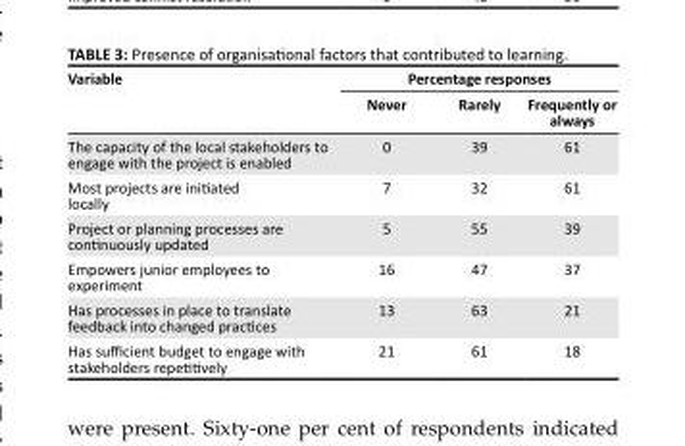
<table><thead><tr><td rowspan="2">Variable</td><td colspan="3">Percentage responses</td></tr><tr><td>Never</td><td>Rarely</td><td>Frequently or always</td></tr></thead><tbody><tr><td>The capacity of the local stakeholders to engage with the project is enabled</td><td>0</td><td>39</td><td>61</td></tr><tr><td>Most projects are initiated locally</td><td>7</td><td>32</td><td>61</td></tr><tr><td>Project or planning processes are continuously updated</td><td>5</td><td>55</td><td>39</td></tr><tr><td>Empowers junior employees to experiment</td><td>16</td><td>47</td><td>37</td></tr><tr><td>Has processes in place to translate feedback into changed practices</td><td>13</td><td>63</td><td>21</td></tr><tr><td>Has sufficient budget to engage with stakeholders repetitively</td><td>21</td><td>61</td><td>18</td></tr></tbody></table>